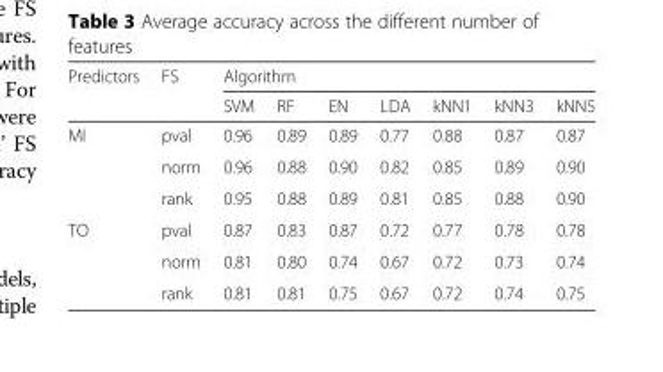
<table><thead><tr><td rowspan="2">Predictors</td><td rowspan="2">FS</td><td colspan="7">Algorithm</td></tr><tr><td>SVM</td><td>RF</td><td>EN</td><td>LDA</td><td>kNN1</td><td>kNN3</td><td>kNN5</td></tr></thead><tbody><tr><td rowspan="3">MI</td><td>pval</td><td>0.96</td><td>0.89</td><td>0.89</td><td>0.77</td><td>0.88</td><td>0.87</td><td>0.87</td></tr><tr><td>norm</td><td>0.96</td><td>0.88</td><td>0.90</td><td>0.82</td><td>0.85</td><td>0.89</td><td>0.90</td></tr><tr><td>rank</td><td>0.95</td><td>0.88</td><td>0.89</td><td>0.81</td><td>0.85</td><td>0.88</td><td>0.90</td></tr><tr><td rowspan="3">TO</td><td>pval</td><td>0.87</td><td>0.83</td><td>0.87</td><td>0.72</td><td>0.77</td><td>0.78</td><td>0.78</td></tr><tr><td>norm</td><td>0.81</td><td>0.80</td><td>0.74</td><td>0.67</td><td>0.72</td><td>0.73</td><td>0.74</td></tr><tr><td>rank</td><td>0.81</td><td>0.81</td><td>0.75</td><td>0.67</td><td>0.72</td><td>0.74</td><td>0.75</td></tr></tbody></table>